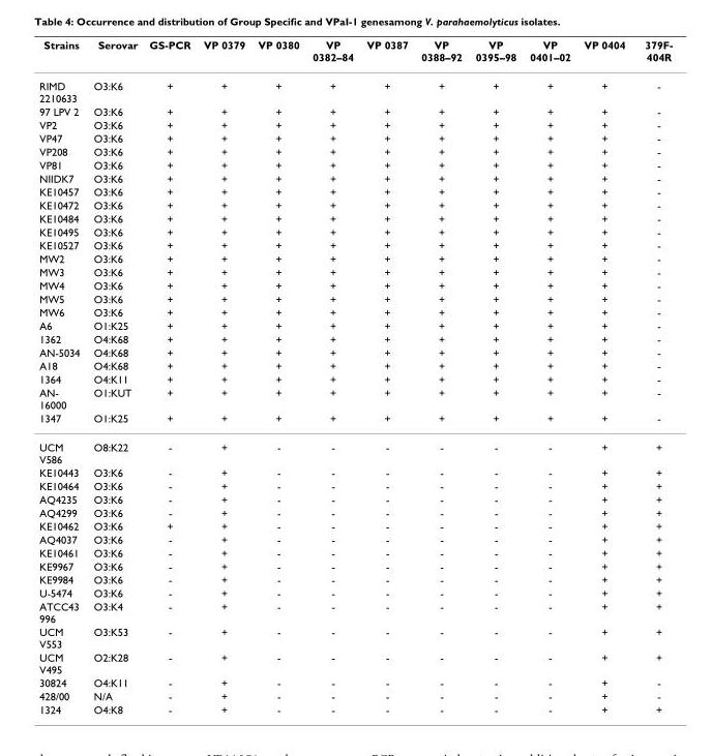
<table><thead><tr><td>Strains</td><td>Serovar</td><td>GS-PCR</td><td>VP 0379</td><td>VP 0380</td><td>VP 0382–84</td><td>VP 0387</td><td>VP 0388–92</td><td>VP 0395–98</td><td>VP 0401–02</td><td>VP 0404</td><td>379F- 404R</td></tr></thead><tbody><tr><td>RIMD 2210633</td><td>O3:K6</td><td>+</td><td>+</td><td>+</td><td>+</td><td>+</td><td>+</td><td>+</td><td>+</td><td>+</td><td>-</td></tr><tr><td>97 LPV 2</td><td>O3:K6</td><td>+</td><td>+</td><td>+</td><td>+</td><td>+</td><td>+</td><td>+</td><td>+</td><td>+</td><td>-</td></tr><tr><td>VP2</td><td>O3:K6</td><td>+</td><td>+</td><td>+</td><td>+</td><td>+</td><td>+</td><td>+</td><td>+</td><td>+</td><td>-</td></tr><tr><td>VP47</td><td>O3:K6</td><td>+</td><td>+</td><td>+</td><td>+</td><td>+</td><td>+</td><td>+</td><td>+</td><td>+</td><td>-</td></tr><tr><td>VP208</td><td>O3:K6</td><td>+</td><td>+</td><td>+</td><td>+</td><td>+</td><td>+</td><td>+</td><td>+</td><td>+</td><td>-</td></tr><tr><td>VP81</td><td>O3:K6</td><td>+</td><td>+</td><td>+</td><td>+</td><td>+</td><td>+</td><td>+</td><td>+</td><td>+</td><td>-</td></tr><tr><td>NIIDK7</td><td>O3:K6</td><td>+</td><td>+</td><td>+</td><td>+</td><td>+</td><td>+</td><td>+</td><td>+</td><td>+</td><td>-</td></tr><tr><td>KE10457</td><td>O3:K6</td><td>+</td><td>+</td><td>+</td><td>+</td><td>+</td><td>+</td><td>+</td><td>+</td><td>+</td><td>-</td></tr><tr><td>KE10472</td><td>O3:K6</td><td>+</td><td>+</td><td>+</td><td>+</td><td>+</td><td>+</td><td>+</td><td>+</td><td>+</td><td>-</td></tr><tr><td>KE10484</td><td>O3:K6</td><td>+</td><td>+</td><td>+</td><td>+</td><td>+</td><td>+</td><td>+</td><td>+</td><td>+</td><td>-</td></tr><tr><td>KE10495</td><td>O3:K6</td><td>+</td><td>+</td><td>+</td><td>+</td><td>+</td><td>+</td><td>+</td><td>+</td><td>+</td><td>-</td></tr><tr><td>KE10527</td><td>O3:K6</td><td>+</td><td>+</td><td>+</td><td>+</td><td>+</td><td>+</td><td>+</td><td>+</td><td>+</td><td>-</td></tr><tr><td>MW2</td><td>O3:K6</td><td>+</td><td>+</td><td>+</td><td>+</td><td>+</td><td>+</td><td>+</td><td>+</td><td>+</td><td>-</td></tr><tr><td>MW3</td><td>O3:K6</td><td>+</td><td>+</td><td>+</td><td>+</td><td>+</td><td>+</td><td>+</td><td>+</td><td>+</td><td>-</td></tr><tr><td>MW4</td><td>O3:K6</td><td>+</td><td>+</td><td>+</td><td>+</td><td>+</td><td>+</td><td>+</td><td>+</td><td>+</td><td>-</td></tr><tr><td>MW5</td><td>O3:K6</td><td>+</td><td>+</td><td>+</td><td>+</td><td>+</td><td>+</td><td>+</td><td>+</td><td>+</td><td>-</td></tr><tr><td>MW6</td><td>O3:K6</td><td>+</td><td>+</td><td>+</td><td>+</td><td>+</td><td>+</td><td>+</td><td>+</td><td>+</td><td>-</td></tr><tr><td>A6</td><td>O1:K25</td><td>+</td><td>+</td><td>+</td><td>+</td><td>+</td><td>+</td><td>+</td><td>+</td><td>+</td><td>-</td></tr><tr><td>1362</td><td>O4:K68</td><td>+</td><td>+</td><td>+</td><td>+</td><td>+</td><td>+</td><td>+</td><td>+</td><td>+</td><td>-</td></tr><tr><td>AN-5034</td><td>O4:K68</td><td>+</td><td>+</td><td>+</td><td>+</td><td>+</td><td>+</td><td>+</td><td>+</td><td>+</td><td>-</td></tr><tr><td>A18</td><td>O4:K68</td><td>+</td><td>+</td><td>+</td><td>+</td><td>+</td><td>+</td><td>+</td><td>+</td><td>+</td><td>-</td></tr><tr><td>1364</td><td>O4:K11</td><td>+</td><td>+</td><td>+</td><td>+</td><td>+</td><td>+</td><td>+</td><td>+</td><td>+</td><td>-</td></tr><tr><td>AN- 16000</td><td>O1:KUT</td><td>+</td><td>+</td><td>+</td><td>+</td><td>+</td><td>+</td><td>+</td><td>+</td><td>+</td><td>-</td></tr><tr><td>1347</td><td>O1:K25</td><td>+</td><td>+</td><td>+</td><td>+</td><td>+</td><td>+</td><td>+</td><td>+</td><td>+</td><td>-</td></tr><tr><td>UCM V586</td><td>O8:K22</td><td>-</td><td>+</td><td>-</td><td>-</td><td>-</td><td>-</td><td>-</td><td>-</td><td>+</td><td>+</td></tr><tr><td>KE10443</td><td>O3:K6</td><td>-</td><td>+</td><td>-</td><td>-</td><td>-</td><td>-</td><td>-</td><td>-</td><td>+</td><td>+</td></tr><tr><td>KE10464</td><td>O3:K6</td><td>-</td><td>+</td><td>-</td><td>-</td><td>-</td><td>-</td><td>-</td><td>-</td><td>+</td><td>+</td></tr><tr><td>AQ4235</td><td>O3:K6</td><td>-</td><td>+</td><td>-</td><td>-</td><td>-</td><td>-</td><td>-</td><td>-</td><td>+</td><td>+</td></tr><tr><td>AQ4299</td><td>O3:K6</td><td>-</td><td>+</td><td>-</td><td>-</td><td>-</td><td>-</td><td>-</td><td>-</td><td>+</td><td>+</td></tr><tr><td>KE10462</td><td>O3:K6</td><td>+</td><td>+</td><td>-</td><td>-</td><td>-</td><td>-</td><td>-</td><td>-</td><td>+</td><td>+</td></tr><tr><td>AQ4037</td><td>O3:K6</td><td>-</td><td>+</td><td>-</td><td>-</td><td>-</td><td>-</td><td>-</td><td>-</td><td>+</td><td>+</td></tr><tr><td>KE10461</td><td>O3:K6</td><td>-</td><td>+</td><td>-</td><td>-</td><td>-</td><td>-</td><td>-</td><td>-</td><td>+</td><td>+</td></tr><tr><td>KE9967</td><td>O3:K6</td><td>-</td><td>+</td><td>-</td><td>-</td><td>-</td><td>-</td><td>-</td><td>-</td><td>+</td><td>+</td></tr><tr><td>KE9984</td><td>O3:K6</td><td>-</td><td>+</td><td>-</td><td>-</td><td>-</td><td>-</td><td>-</td><td>-</td><td>+</td><td>+</td></tr><tr><td>U-5474</td><td>O3:K6</td><td>-</td><td>+</td><td>-</td><td>-</td><td>-</td><td>-</td><td>-</td><td>-</td><td>+</td><td>+</td></tr><tr><td>ATCC43 996</td><td>O3:K4</td><td>-</td><td>+</td><td>-</td><td>-</td><td>-</td><td>-</td><td>-</td><td>-</td><td>+</td><td>+</td></tr><tr><td>UCM V553</td><td>O3:K53</td><td>-</td><td>+</td><td>-</td><td>-</td><td>-</td><td>-</td><td>-</td><td>-</td><td>+</td><td>+</td></tr><tr><td>UCM V495</td><td>O2:K28</td><td>-</td><td>+</td><td>-</td><td>-</td><td>-</td><td>-</td><td>-</td><td>-</td><td>+</td><td>+</td></tr><tr><td>30824</td><td>O4:K11</td><td>-</td><td>+</td><td>-</td><td>-</td><td>-</td><td>-</td><td>-</td><td>-</td><td>+</td><td>-</td></tr><tr><td>428/00</td><td>N/A</td><td>-</td><td>+</td><td>-</td><td>-</td><td>-</td><td>-</td><td>-</td><td>-</td><td>+</td><td>-</td></tr><tr><td>1324</td><td>O4:K8</td><td>-</td><td>+</td><td>-</td><td>-</td><td>-</td><td>-</td><td>-</td><td>-</td><td>+</td><td>+</td></tr></tbody></table>